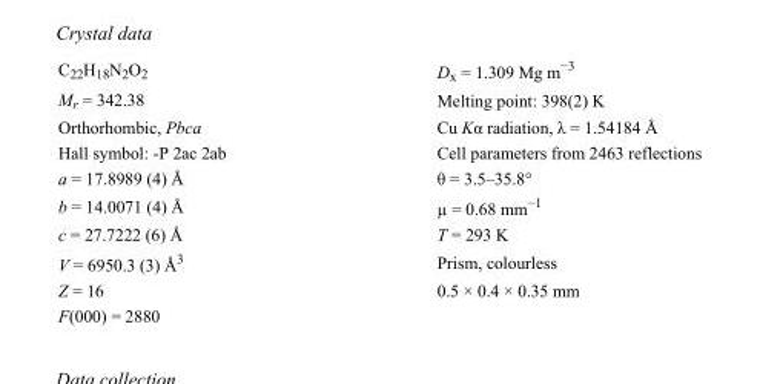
<table><tbody><tr><td>C<sub>22</sub>H<sub>18</sub>N<sub>2</sub>O<sub>2</sub></td><td>D<sub>x</sub> = 1.309 Mg m<sup>−3</sup></td></tr><tr><td>M<sub>r</sub> = 342.38</td><td>Melting point: 398(2) K</td></tr><tr><td>Orthorhombic, Pbca</td><td>Cu Kα radiation, λ = 1.54184 Å</td></tr><tr><td>Hall symbol: -P 2ac 2ab</td><td>Cell parameters from 2463 reflections</td></tr><tr><td>a = 17.8989 (4) Å</td><td>θ = 3.5–35.8°</td></tr><tr><td>b = 14.0071 (4) Å</td><td>µ = 0.68 mm<sup>−1</sup></td></tr><tr><td>c = 27.7222 (6) Å</td><td>T = 293 K</td></tr><tr><td>V = 6950.3 (3) Å<sup>3</sup></td><td>Prism, colourless</td></tr><tr><td>Z = 16</td><td>0.5 × 0.4 × 0.35 mm</td></tr><tr><td>F(000) = 2880</td><td></td></tr></tbody></table>